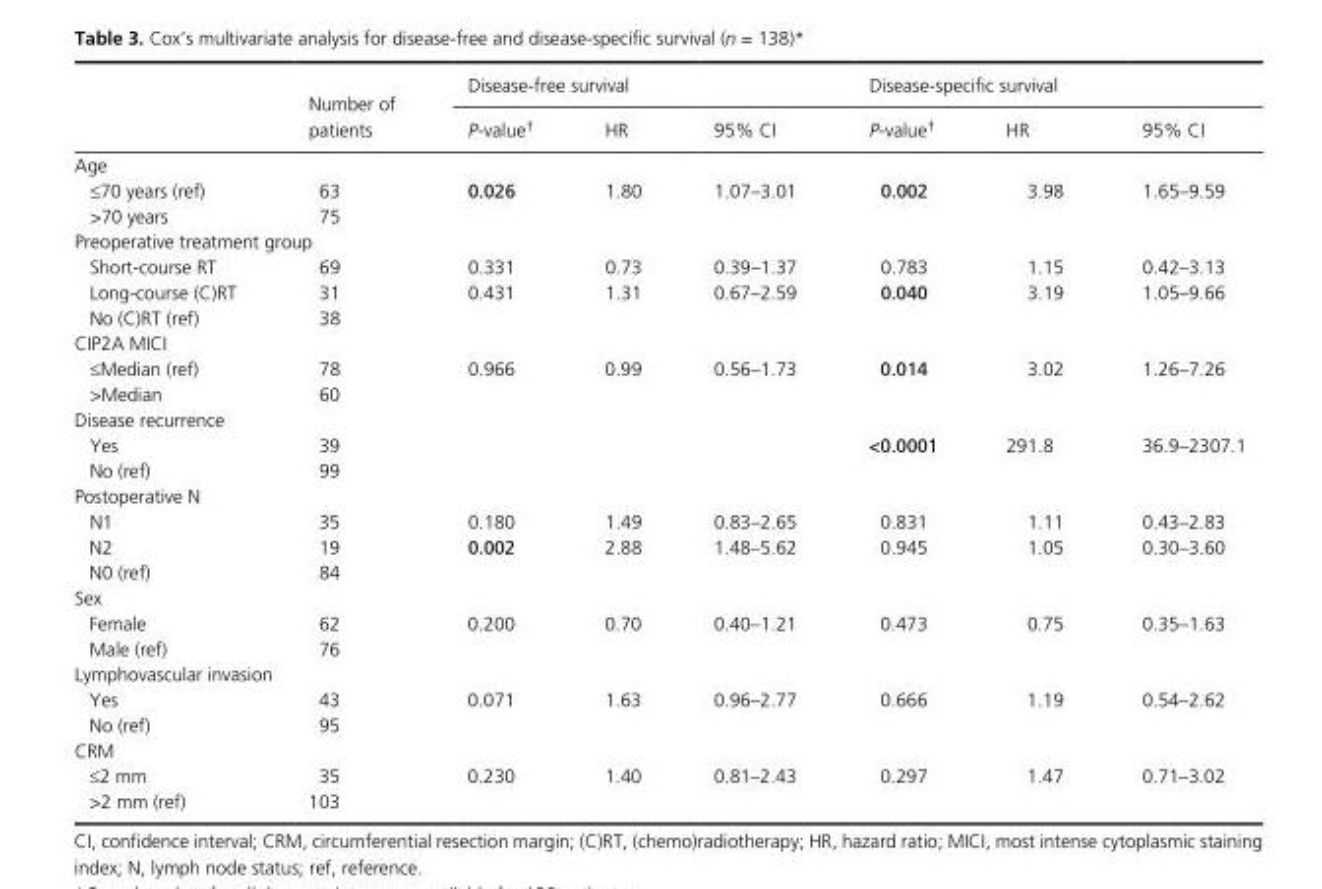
<table><thead><tr><td rowspan="2"></td><td rowspan="2">Number of patients</td><td colspan="3">Disease- free survival</td><td colspan="3">Disease- specific survival</td></tr><tr><td>P- value†</td><td>HR</td><td>95% CI</td><td>P- value†</td><td>HR</td><td>95% CI</td></tr></thead><tbody><tr><td colspan="8">Age</td></tr><tr><td>≤70 years (ref)</td><td>63</td><td>0.026</td><td>1.80</td><td>1.07–3.01</td><td>0.002</td><td>3.98</td><td>1.65–9.59</td></tr><tr><td>&gt;70 years</td><td>75</td><td></td><td></td><td></td><td></td><td></td><td></td></tr><tr><td colspan="8">Preoperative treatment group</td></tr><tr><td>Short- course RT</td><td>69</td><td>0.331</td><td>0.73</td><td>0.39–1.37</td><td>0.783</td><td>1.15</td><td>0.42–3.13</td></tr><tr><td>Long- course (C)RT</td><td>31</td><td>0.431</td><td>1.31</td><td>0.67–2.59</td><td>0.040</td><td>3.19</td><td>1.05–9.66</td></tr><tr><td>No (C)RT (ref)</td><td>38</td><td></td><td></td><td></td><td></td><td></td><td></td></tr><tr><td colspan="8">CIP2A MICI</td></tr><tr><td>≤Median (ref)</td><td>78</td><td>0.966</td><td>0.99</td><td>0.56–1.73</td><td>0.014</td><td>3.02</td><td>1.26–7.26</td></tr><tr><td>&gt;Median</td><td>60</td><td></td><td></td><td></td><td></td><td></td><td></td></tr><tr><td colspan="8">Disease recurrence</td></tr><tr><td>Yes</td><td>39</td><td></td><td></td><td></td><td>&lt;0.0001</td><td>291.8</td><td>36.9–2307.1</td></tr><tr><td>No (ref)</td><td>99</td><td></td><td></td><td></td><td></td><td></td><td></td></tr><tr><td colspan="8">Postoperative N</td></tr><tr><td>N1</td><td>35</td><td>0.180</td><td>1.49</td><td>0.83–2.65</td><td>0.831</td><td>1.11</td><td>0.43–2.83</td></tr><tr><td>N2</td><td>19</td><td>0.002</td><td>2.88</td><td>1.48–5.62</td><td>0.945</td><td>1.05</td><td>0.30–3.60</td></tr><tr><td>N0 (ref)</td><td>84</td><td></td><td></td><td></td><td></td><td></td><td></td></tr><tr><td colspan="8">Sex</td></tr><tr><td>Female</td><td>62</td><td>0.200</td><td>0.70</td><td>0.40–1.21</td><td>0.473</td><td>0.75</td><td>0.35–1.63</td></tr><tr><td>Male (ref)</td><td>76</td><td></td><td></td><td></td><td></td><td></td><td></td></tr><tr><td colspan="8">Lymphovascular invasion</td></tr><tr><td>Yes</td><td>43</td><td>0.071</td><td>1.63</td><td>0.96–2.77</td><td>0.666</td><td>1.19</td><td>0.54–2.62</td></tr><tr><td>No (ref)</td><td>95</td><td></td><td></td><td></td><td></td><td></td><td></td></tr><tr><td colspan="8">CRM</td></tr><tr><td>≤2 mm</td><td>35</td><td>0.230</td><td>1.40</td><td>0.81–2.43</td><td>0.297</td><td>1.47</td><td>0.71–3.02</td></tr><tr><td>&gt;2 mm (ref)</td><td>103</td><td></td><td></td><td></td><td></td><td></td><td></td></tr></tbody></table>